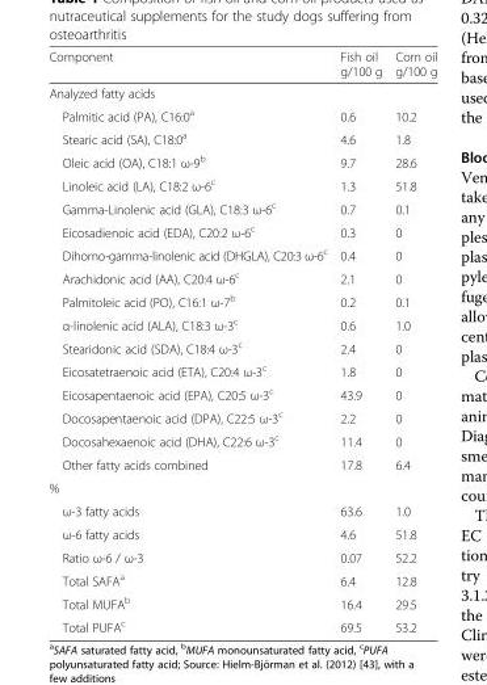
<table><thead><tr><td>Component</td><td>Fish oil g/100 g</td><td>Corn oil g/100 g</td></tr></thead><tbody><tr><td colspan="3">Analyzed fatty acids</td></tr><tr><td>Palmitic acid (PA), C16:0<sup>a</sup></td><td>0.6</td><td>10.2</td></tr><tr><td>Stearic acid (SA), C18:0<sup>a</sup></td><td>4.6</td><td>1.8</td></tr><tr><td>Oleic acid (OA), C18:1 ω-9<sup>b</sup></td><td>9.7</td><td>28.6</td></tr><tr><td>Linoleic acid (LA), C18:2 ω-6<sup>c</sup></td><td>1.3</td><td>51.8</td></tr><tr><td>Gamma-Linolenic acid (GLA), C18:3 ω-6<sup>c</sup></td><td>0.7</td><td>0.1</td></tr><tr><td>Eicosadienoic acid (EDA), C20:2 ω-6<sup>c</sup></td><td>0.3</td><td>0</td></tr><tr><td>Dihomo-gamma-linolenic acid (DHGLA), C20:3 ω-6<sup>c</sup></td><td>0.4</td><td>0</td></tr><tr><td>Arachidonic acid (AA), C20:4 ω-6<sup>c</sup></td><td>2.1</td><td>0</td></tr><tr><td>Palmitoleic acid (PO), C16:1 ω-7<sup>b</sup></td><td>0.2</td><td>0.1</td></tr><tr><td>α-linolenic acid (ALA), C18:3 ω-3<sup>c</sup></td><td>0.6</td><td>1.0</td></tr><tr><td>Stearidonic acid (SDA), C18:4 ω-3<sup>c</sup></td><td>2.4</td><td>0</td></tr><tr><td>Eicosatetraenoic acid (ETA), C20:4 ω-3<sup>c</sup></td><td>1.8</td><td>0</td></tr><tr><td>Eicosapentaenoic acid (EPA), C20:5 ω-3<sup>c</sup></td><td>43.9</td><td>0</td></tr><tr><td>Docosapentaenoic acid (DPA), C22:5 ω-3<sup>c</sup></td><td>2.2</td><td>0</td></tr><tr><td>Docosahexaenoic acid (DHA), C22:6 ω-3<sup>c</sup></td><td>11.4</td><td>0</td></tr><tr><td>Other fatty acids combined</td><td>17.8</td><td>6.4</td></tr><tr><td colspan="3">%</td></tr><tr><td>ω-3 fatty acids</td><td>63.6</td><td>1.0</td></tr><tr><td>ω-6 fatty acids</td><td>4.6</td><td>51.8</td></tr><tr><td>Ratio ω-6 / ω-3</td><td>0.07</td><td>52.2</td></tr><tr><td>Total SAFA<sup>a</sup></td><td>6.4</td><td>12.8</td></tr><tr><td>Total MUFA<sup>b</sup></td><td>16.4</td><td>29.5</td></tr><tr><td>Total PUFA<sup>c</sup></td><td>69.5</td><td>53.2</td></tr></tbody></table>